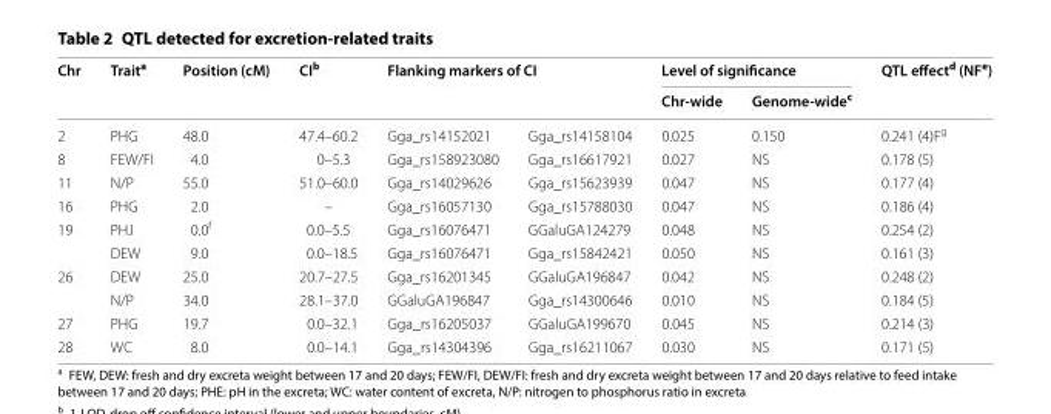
<table><thead><tr><td rowspan="3">Chr 2</td><td rowspan="3">Trait<sup>a</sup> PHG</td><td rowspan="3">Position (cM) 48.0</td><td rowspan="3">CI<sup>b</sup> 47.4–60.2</td><td rowspan="2" colspan="2">Flanking markers of CI</td><td colspan="2">Level of significance</td><td rowspan="3">QTL effect<sup>d</sup> (NF<sup>e</sup>) 0.241 (4)F<sup>g</sup></td></tr><tr><td rowspan="2">Chr‑wide 0.025</td><td rowspan="2">Genome‑wide<sup>c</sup> 0.150</td></tr><tr><td>Gga_rs14152021</td><td>Gga_rs14158104</td></tr></thead><tbody><tr><td>8</td><td>FEW/FI</td><td>4.0</td><td>0–5.3</td><td>Gga_rs158923080</td><td>Gga_rs16617921</td><td>0.027</td><td>NS</td><td>0.178 (5)</td></tr><tr><td>11</td><td>N/P</td><td>55.0</td><td>51.0–60.0</td><td>Gga_rs14029626</td><td>Gga_rs15623939</td><td>0.047</td><td>NS</td><td>0.177 (4)</td></tr><tr><td>16</td><td>PHG</td><td>2.0</td><td>–</td><td>Gga_rs16057130</td><td>Gga_rs15788030</td><td>0.047</td><td>NS</td><td>0.186 (4)</td></tr><tr><td rowspan="2">19</td><td>PHJ</td><td>0.0<sup>f</sup></td><td>0.0–5.5</td><td>Gga_rs16076471</td><td>GGaluGA124279</td><td>0.048</td><td>NS</td><td>0.254 (2)</td></tr><tr><td>DEW</td><td>9.0</td><td>0.0–18.5</td><td>Gga_rs16076471</td><td>Gga_rs15842421</td><td>0.050</td><td>NS</td><td>0.161 (3)</td></tr><tr><td rowspan="2">26</td><td>DEW</td><td>25.0</td><td>20.7–27.5</td><td>Gga_rs16201345</td><td>GGaluGA196847</td><td>0.042</td><td>NS</td><td>0.248 (2)</td></tr><tr><td>N/P</td><td>34.0</td><td>28.1–37.0</td><td>GGaluGA196847</td><td>Gga_rs14300646</td><td>0.010</td><td>NS</td><td>0.184 (5)</td></tr><tr><td>27</td><td>PHG</td><td>19.7</td><td>0.0–32.1</td><td>Gga_rs16205037</td><td>GGaluGA199670</td><td>0.045</td><td>NS</td><td>0.214 (3)</td></tr><tr><td>28</td><td>WC</td><td>8.0</td><td>0.0–14.1</td><td>Gga_rs14304396</td><td>Gga_rs16211067</td><td>0.030</td><td>NS</td><td>0.171 (5)</td></tr></tbody></table>